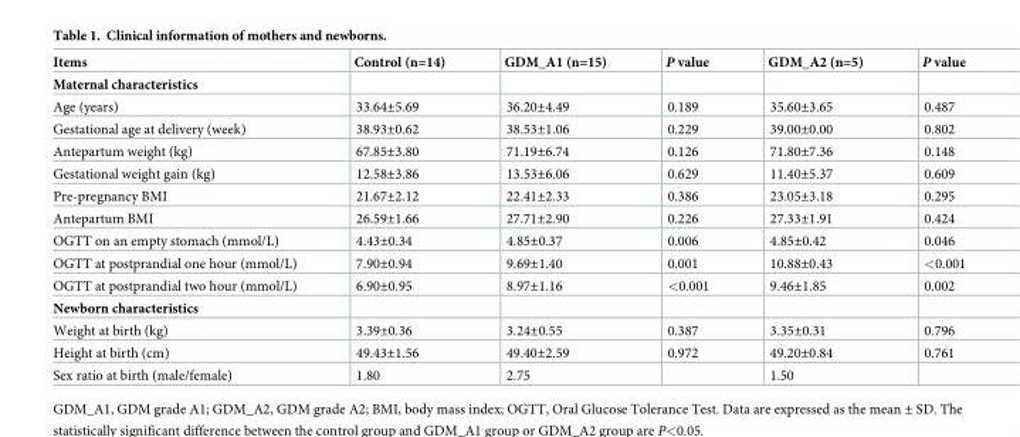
<table><thead><tr><td>Items</td><td>Control (n=14)</td><td>GDM_A1 (n=15)</td><td>P value</td><td>GDM_A2 (n=5)</td><td>P value</td></tr></thead><tbody><tr><td colspan="6">Maternal characteristics</td></tr><tr><td>Age (years)</td><td>33.64±5.69</td><td>36.20±4.49</td><td>0.189</td><td>35.60±3.65</td><td>0.487</td></tr><tr><td>Gestational age at delivery (week)</td><td>38.93±0.62</td><td>38.53±1.06</td><td>0.229</td><td>39.00±0.00</td><td>0.802</td></tr><tr><td>Antepartum weight (kg)</td><td>67.85±3.80</td><td>71.19±6.74</td><td>0.126</td><td>71.80±7.36</td><td>0.148</td></tr><tr><td>Gestational weight gain (kg)</td><td>12.58±3.86</td><td>13.53±6.06</td><td>0.629</td><td>11.40±5.37</td><td>0.609</td></tr><tr><td>Pre-pregnancy BMI</td><td>21.67±2.12</td><td>22.41±2.33</td><td>0.386</td><td>23.05±3.18</td><td>0.295</td></tr><tr><td>Antepartum BMI</td><td>26.59±1.66</td><td>27.71±2.90</td><td>0.226</td><td>27.33±1.91</td><td>0.424</td></tr><tr><td>OGTT on an empty stomach (mmol/L)</td><td>4.43±0.34</td><td>4.85±0.37</td><td>0.006</td><td>4.85±0.42</td><td>0.046</td></tr><tr><td>OGTT at postprandial one hour (mmol/L)</td><td>7.90±0.94</td><td>9.69±1.40</td><td>0.001</td><td>10.88±0.43</td><td>&lt;0.001</td></tr><tr><td>OGTT at postprandial two hour (mmol/L)</td><td>6.90±0.95</td><td>8.97±1.16</td><td>&lt;0.001</td><td>9.46±1.85</td><td>0.002</td></tr><tr><td colspan="6">Newborn characteristics</td></tr><tr><td>Weight at birth (kg)</td><td>3.39±0.36</td><td>3.24±0.55</td><td>0.387</td><td>3.35±0.31</td><td>0.796</td></tr><tr><td>Height at birth (cm)</td><td>49.43±1.56</td><td>49.40±2.59</td><td>0.972</td><td>49.20±0.84</td><td>0.761</td></tr><tr><td>Sex ratio at birth (male/female)</td><td>1.80</td><td>2.75</td><td></td><td>1.50</td><td></td></tr></tbody></table>